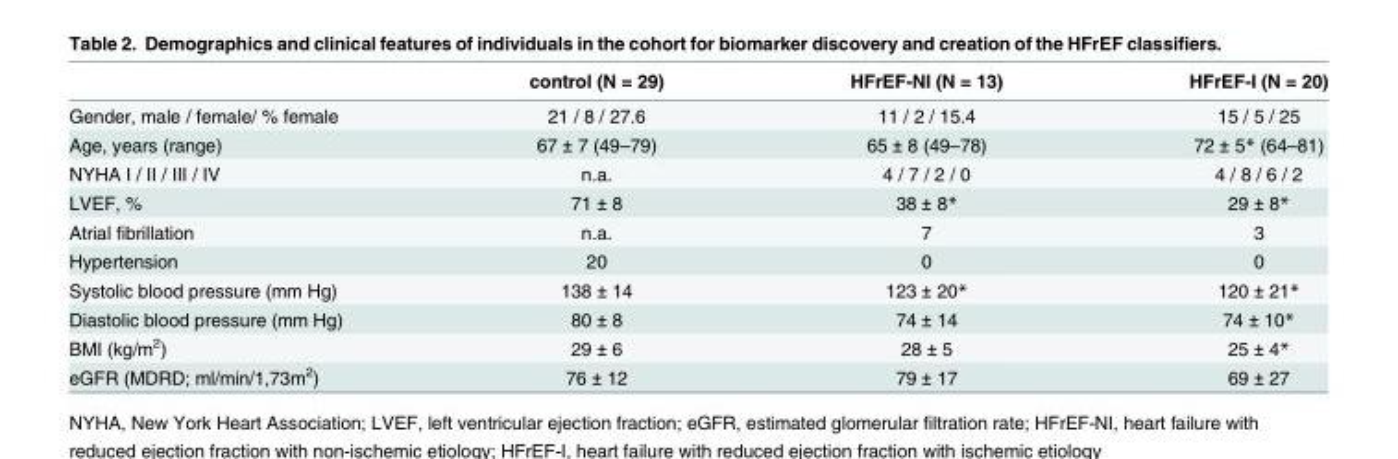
<table><thead><tr><td></td><td>control (N = 29)</td><td>HFrEF-NI (N = 13)</td><td>HFrEF-I (N = 20)</td></tr></thead><tbody><tr><td>Gender, male / female/ % female</td><td>21 / 8 / 27.6</td><td>11 / 2 / 15.4</td><td>15 / 5 / 25</td></tr><tr><td>Age, years (range)</td><td>67 ± 7 (49–79)</td><td>65 ± 8 (49–78)</td><td>72 ± 5* (64–81)</td></tr><tr><td>NYHA I / II / III / IV</td><td>n.a.</td><td>4 / 7 / 2 / 0</td><td>4 / 8 / 6 / 2</td></tr><tr><td>LVEF, %</td><td>71 ± 8</td><td>38 ± 8*</td><td>29 ± 8*</td></tr><tr><td>Atrial fibrillation</td><td>n.a.</td><td>7</td><td>3</td></tr><tr><td>Hypertension</td><td>20</td><td>0</td><td>0</td></tr><tr><td>Systolic blood pressure (mm Hg)</td><td>138 ± 14</td><td>123 ± 20*</td><td>120 ± 21*</td></tr><tr><td>Diastolic blood pressure (mm Hg)</td><td>80 ± 8</td><td>74 ± 14</td><td>74 ± 10*</td></tr><tr><td>BMI (kg/m<sup>2</sup>)</td><td>29 ± 6</td><td>28 ± 5</td><td>25 ± 4*</td></tr><tr><td>eGFR (MDRD; ml/min/1,73m<sup>2</sup>)</td><td>76 ± 12</td><td>79 ± 17</td><td>69 ± 27</td></tr></tbody></table>